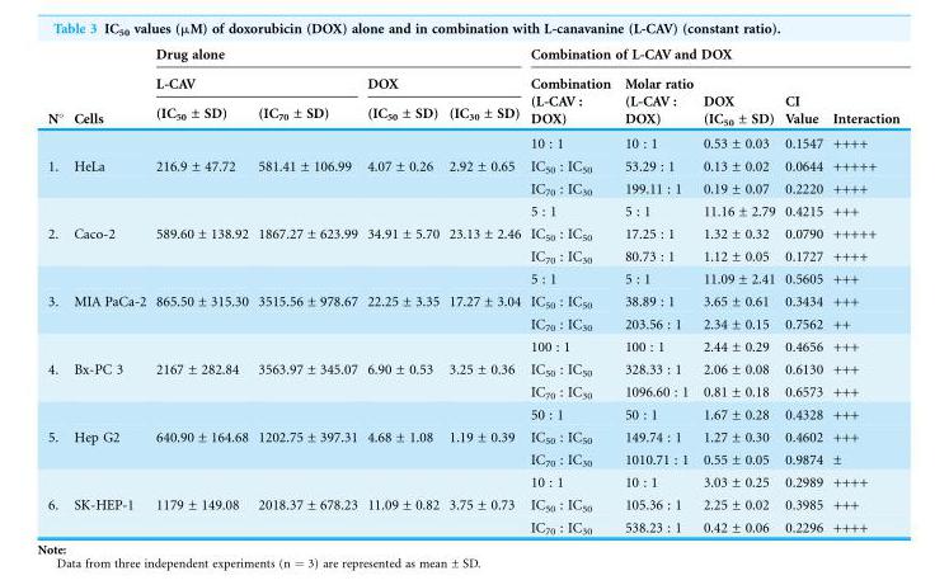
<table><thead><tr><td rowspan="3">N°</td><td rowspan="3">Cells</td><td colspan="4">Drug alone</td><td colspan="5">Combination of L-CAV and DOX</td></tr><tr><td colspan="2">L-CAV</td><td colspan="2">DOX</td><td rowspan="2">Combination (L-CAV : DOX)</td><td rowspan="2">Molar ratio (L-CAV : DOX)</td><td rowspan="2">DOX (IC<sub>50</sub> ± SD)</td><td rowspan="2">CI Value</td><td rowspan="2">Interaction</td></tr><tr><td>(IC<sub>50</sub> ± SD)</td><td>(IC<sub>70</sub> ± SD)</td><td>(IC<sub>50</sub> ± SD)</td><td>(IC<sub>30</sub> ± SD)</td></tr></thead><tbody><tr><td></td><td></td><td></td><td></td><td></td><td></td><td>10 : 1</td><td>10 : 1</td><td>0.53 ± 0.03</td><td>0.1547</td><td>++++</td></tr><tr><td rowspan="3">1.</td><td>HeLa</td><td>216.9 ± 47.72</td><td>581.41 ± 106.99</td><td>4.07 ± 0.26</td><td>2.92 ± 0.65</td><td>IC<sub>50</sub> : IC<sub>50</sub></td><td>53.29 : 1</td><td>0.13 ± 0.02</td><td>0.0644</td><td>+++++</td></tr><tr><td></td><td></td><td></td><td></td><td></td><td>IC<sub>70</sub> : IC<sub>30</sub></td><td>199.11 : 1</td><td>0.19 ± 0.07</td><td>0.2220</td><td>++++</td></tr><tr><td></td><td></td><td></td><td></td><td></td><td>5 : 1</td><td>5 : 1</td><td>11.16 ± 2.79</td><td>0.4215</td><td>+++</td></tr><tr><td rowspan="3">2.</td><td>Caco-2</td><td>589.60 ± 138.92</td><td>1867.27 ± 623.99</td><td>34.91 ± 5.70</td><td>23.13 ± 2.46</td><td>IC<sub>50</sub> : IC<sub>50</sub></td><td>17.25 : 1</td><td>1.32 ± 0.32</td><td>0.0790</td><td>+++++</td></tr><tr><td></td><td></td><td></td><td></td><td></td><td>IC<sub>70</sub> : IC<sub>30</sub></td><td>80.73 : 1</td><td>1.12 ± 0.05</td><td>0.1727</td><td>++++</td></tr><tr><td></td><td></td><td></td><td></td><td></td><td>5 : 1</td><td>5 : 1</td><td>11.09 ± 2.41</td><td>0.5605</td><td>+++</td></tr><tr><td rowspan="3">3.</td><td>MIA PaCa-2</td><td>865.50 ± 315.30</td><td>3515.56 ± 978.67</td><td>22.25 ± 3.35</td><td>17.27 ± 3.04</td><td>IC<sub>50</sub> : IC<sub>50</sub></td><td>38.89 : 1</td><td>3.65 ± 0.61</td><td>0.3434</td><td>+++</td></tr><tr><td></td><td></td><td></td><td></td><td></td><td>IC<sub>70</sub> : IC<sub>30</sub></td><td>203.56 : 1</td><td>2.34 ± 0.15</td><td>0.7562</td><td>++</td></tr><tr><td></td><td></td><td></td><td></td><td></td><td>100 : 1</td><td>100 : 1</td><td>2.44 ± 0.29</td><td>0.4656</td><td>+++</td></tr><tr><td rowspan="3">4.</td><td>Bx-PC 3</td><td>2167 ± 282.84</td><td>3563.97 ± 345.07</td><td>6.90 ± 0.53</td><td>3.25 ± 0.36</td><td>IC<sub>50</sub> : IC<sub>50</sub></td><td>328.33 : 1</td><td>2.06 ± 0.08</td><td>0.6130</td><td>+++</td></tr><tr><td></td><td></td><td></td><td></td><td></td><td>IC<sub>70</sub> : IC<sub>30</sub></td><td>1096.60 : 1</td><td>0.81 ± 0.18</td><td>0.6573</td><td>+++</td></tr><tr><td></td><td></td><td></td><td></td><td></td><td>50 : 1</td><td>50 : 1</td><td>1.67 ± 0.28</td><td>0.4328</td><td>+++</td></tr><tr><td rowspan="3">5.</td><td>Hep G2</td><td>640.90 ± 164.68</td><td>1202.75 ± 397.31</td><td>4.68 ± 1.08</td><td>1.19 ± 0.39</td><td>IC<sub>50</sub> : IC<sub>50</sub></td><td>149.74 : 1</td><td>1.27 ± 0.30</td><td>0.4602</td><td>+++</td></tr><tr><td></td><td></td><td></td><td></td><td></td><td>IC<sub>70</sub> : IC<sub>30</sub></td><td>1010.71 : 1</td><td>0.55 ± 0.05</td><td>0.9874</td><td>±</td></tr><tr><td></td><td></td><td></td><td></td><td></td><td>10 : 1</td><td>10 : 1</td><td>3.03 ± 0.25</td><td>0.2989</td><td>++++</td></tr><tr><td rowspan="2">6.</td><td>SK-HEP-1</td><td>1179 ± 149.08</td><td>2018.37 ± 678.23</td><td>11.09 ± 0.82</td><td>3.75 ± 0.73</td><td>IC<sub>50</sub> : IC<sub>50</sub></td><td>105.36 : 1</td><td>2.25 ± 0.02</td><td>0.3985</td><td>+++</td></tr><tr><td></td><td></td><td></td><td></td><td></td><td>IC<sub>70</sub> : IC<sub>30</sub></td><td>538.23 : 1</td><td>0.42 ± 0.06</td><td>0.2296</td><td>++++</td></tr></tbody></table>